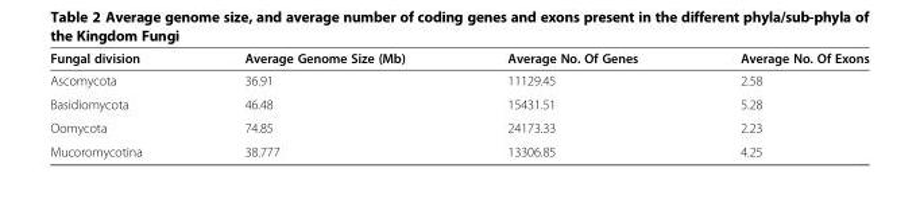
<table><thead><tr><td>Fungal division</td><td>Average Genome Size (Mb)</td><td>Average No. Of Genes</td><td>Average No. Of Exons</td></tr></thead><tbody><tr><td>Ascomycota</td><td>36.91</td><td>11129.45</td><td>2.58</td></tr><tr><td>Basidiomycota</td><td>46.48</td><td>15431.51</td><td>5.28</td></tr><tr><td>Oomycota</td><td>74.85</td><td>24173.33</td><td>2.23</td></tr><tr><td>Mucoromycotina</td><td>38.777</td><td>13306.85</td><td>4.25</td></tr></tbody></table>